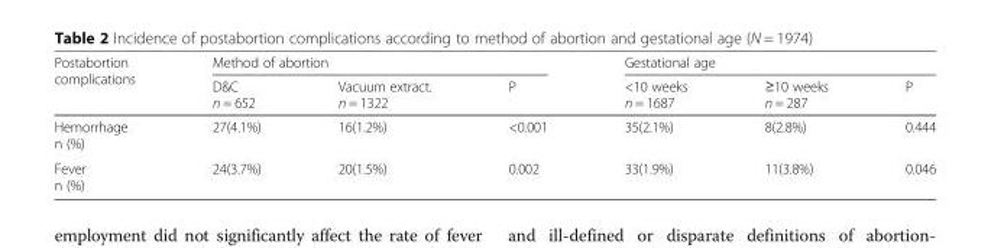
<table><thead><tr><td rowspan="2">Postabortion complications</td><td colspan="3">Method of abortion</td><td colspan="3">Gestational age</td></tr><tr><td>D&amp;C n = 652</td><td>Vacuum extract. n = 1322</td><td>P</td><td>&lt;10 weeks n = 1687</td><td>≥10 weeks n = 287</td><td>P</td></tr></thead><tbody><tr><td>Hemorrhage n (%)</td><td>27(4.1%)</td><td>16(1.2%)</td><td>&lt;0.001</td><td>35(2.1%)</td><td>8(2.8%)</td><td>0.444</td></tr><tr><td>Fever n (%)</td><td>24(3.7%)</td><td>20(1.5%)</td><td>0.002</td><td>33(1.9%)</td><td>11(3.8%)</td><td>0.046</td></tr></tbody></table>